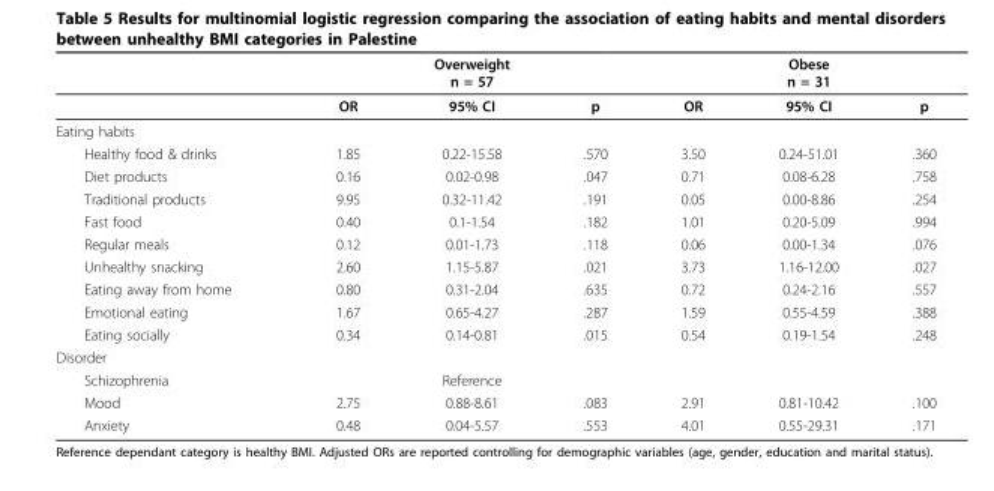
<table><thead><tr><td></td><td></td><td>Overweight n = 57</td><td></td><td></td><td>Obese n = 31</td><td></td></tr></thead><tbody><tr><td></td><td>OR</td><td>95% CI</td><td>p</td><td>OR</td><td>95% CI</td><td>p</td></tr><tr><td colspan="7">Eating habits</td></tr><tr><td>Healthy food &amp; drinks</td><td>1.85</td><td>0.22-15.58</td><td>.570</td><td>3.50</td><td>0.24-51.01</td><td>.360</td></tr><tr><td>Diet products</td><td>0.16</td><td>0.02-0.98</td><td>.047</td><td>0.71</td><td>0.08-6.28</td><td>.758</td></tr><tr><td>Traditional products</td><td>9.95</td><td>0.32-11.42</td><td>.191</td><td>0.05</td><td>0.00-8.86</td><td>.254</td></tr><tr><td>Fast food</td><td>0.40</td><td>0.1-1.54</td><td>.182</td><td>1.01</td><td>0.20-5.09</td><td>.994</td></tr><tr><td>Regular meals</td><td>0.12</td><td>0.01-1.73</td><td>.118</td><td>0.06</td><td>0.00-1.34</td><td>.076</td></tr><tr><td>Unhealthy snacking</td><td>2.60</td><td>1.15-5.87</td><td>.021</td><td>3.73</td><td>1.16-12.00</td><td>.027</td></tr><tr><td>Eating away from home</td><td>0.80</td><td>0.31-2.04</td><td>.635</td><td>0.72</td><td>0.24-2.16</td><td>.557</td></tr><tr><td>Emotional eating</td><td>1.67</td><td>0.65-4.27</td><td>.287</td><td>1.59</td><td>0.55-4.59</td><td>.388</td></tr><tr><td>Eating socially</td><td>0.34</td><td>0.14-0.81</td><td>.015</td><td>0.54</td><td>0.19-1.54</td><td>.248</td></tr><tr><td colspan="7">Disorder</td></tr><tr><td>Schizophrenia</td><td></td><td>Reference</td><td></td><td></td><td></td><td></td></tr><tr><td>Mood</td><td>2.75</td><td>0.88-8.61</td><td>.083</td><td>2.91</td><td>0.81-10.42</td><td>.100</td></tr><tr><td>Anxiety</td><td>0.48</td><td>0.04-5.57</td><td>.553</td><td>4.01</td><td>0.55-29.31</td><td>.171</td></tr></tbody></table>